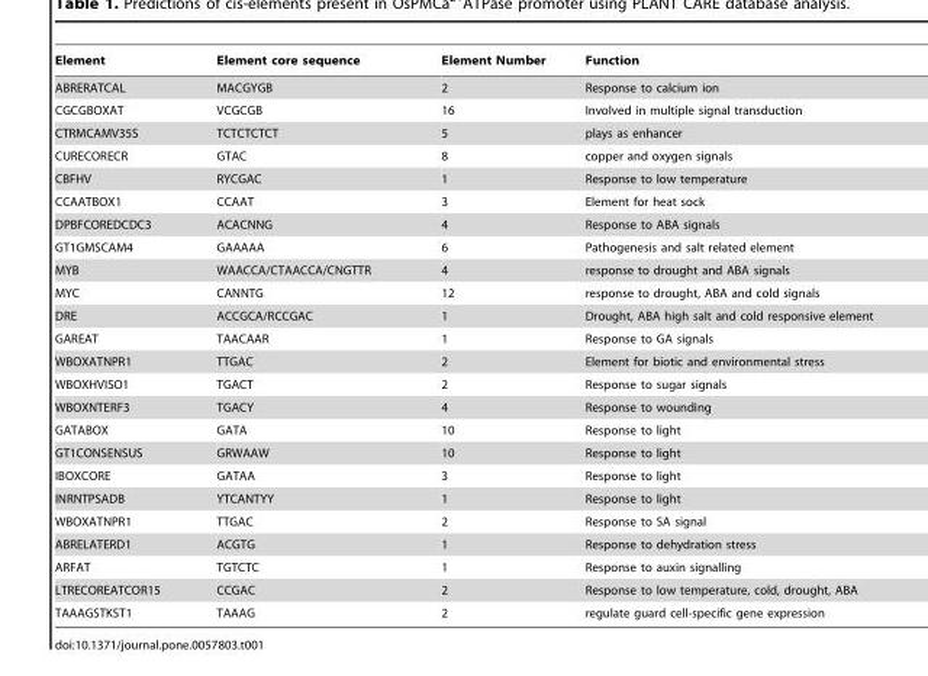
<table><thead><tr><td>Element</td><td>Element core sequence</td><td>Element Number</td><td>Function</td></tr></thead><tbody><tr><td>ABRERATCAL</td><td>MACGYGB</td><td>2</td><td>Response to calcium ion</td></tr><tr><td>CGCGBOXAT</td><td>VCGCGB</td><td>16</td><td>Involved in multiple signal transduction</td></tr><tr><td>CTRMCAMV35S</td><td>TCTCTCTCT</td><td>5</td><td>plays as enhancer</td></tr><tr><td>CURECORECR</td><td>GTAC</td><td>8</td><td>copper and oxygen signals</td></tr><tr><td>CBFHV</td><td>RYCGAC</td><td>1</td><td>Response to low temperature</td></tr><tr><td>CCAATBOX1</td><td>CCAAT</td><td>3</td><td>Element for heat sock</td></tr><tr><td>DPBFCOREDCDC3</td><td>ACACNNG</td><td>4</td><td>Response to ABA signals</td></tr><tr><td>GT1GMSCAM4</td><td>GAAAAA</td><td>6</td><td>Pathogenesis and salt related element</td></tr><tr><td>MYB</td><td>WAACCA/CTAACCA/CNGTTR</td><td>4</td><td>response to drought and ABA signals</td></tr><tr><td>MYC</td><td>CANNTG</td><td>12</td><td>response to drought, ABA and cold signals</td></tr><tr><td>DRE</td><td>ACCGCA/RCCGAC</td><td>1</td><td>Drought, ABA high salt and cold responsive element</td></tr><tr><td>GAREAT</td><td>TAACAAR</td><td>1</td><td>Response to GA signals</td></tr><tr><td>WBOXATNPR1</td><td>TTGAC</td><td>2</td><td>Element for biotic and environmental stress</td></tr><tr><td>WBOXHVISO1</td><td>TGACT</td><td>2</td><td>Response to sugar signals</td></tr><tr><td>WBOXNTERF3</td><td>TGACY</td><td>4</td><td>Response to wounding</td></tr><tr><td>GATABOX</td><td>GATA</td><td>10</td><td>Response to light</td></tr><tr><td>GT1CONSENSUS</td><td>GRWAAW</td><td>10</td><td>Response to light</td></tr><tr><td>IBOXCORE</td><td>GATAA</td><td>3</td><td>Response to light</td></tr><tr><td>INRNTPSADB</td><td>YTCANTYY</td><td>1</td><td>Response to light</td></tr><tr><td>WBOXATNPR1</td><td>TTGAC</td><td>2</td><td>Response to SA signal</td></tr><tr><td>ABRELATERD1</td><td>ACGTG</td><td>1</td><td>Response to dehydration stress</td></tr><tr><td>ARFAT</td><td>TGTCTC</td><td>1</td><td>Response to auxin signalling</td></tr><tr><td>LTRECOREATCOR15</td><td>CCGAC</td><td>2</td><td>Response to low temperature, cold, drought, ABA</td></tr><tr><td>TAAAGSTKST1</td><td>TAAAG</td><td>2</td><td>regulate guard cell-specific gene expression</td></tr></tbody></table>